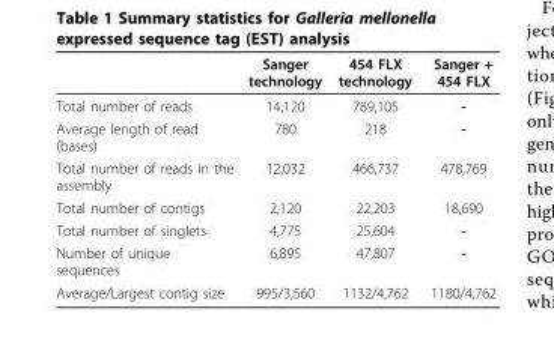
<table><thead><tr><td></td><td>Sanger technology</td><td>454 FLX technology</td><td>Sanger + 454 FLX</td></tr></thead><tbody><tr><td>Total number of reads</td><td>14,120</td><td>789,105</td><td>-</td></tr><tr><td>Average length of read (bases)</td><td>780</td><td>218</td><td>-</td></tr><tr><td>Total number of reads in the assembly</td><td>12,032</td><td>466,737</td><td>478,769</td></tr><tr><td>Total number of contigs</td><td>2,120</td><td>22,203</td><td>18,690</td></tr><tr><td>Total number of singlets</td><td>4,775</td><td>25,604</td><td>-</td></tr><tr><td>Number of unique sequences</td><td>6,895</td><td>47,807</td><td>-</td></tr><tr><td>Average/Largest contig size</td><td>995/3,560</td><td>1132/4,762</td><td>1180/4,762</td></tr></tbody></table>